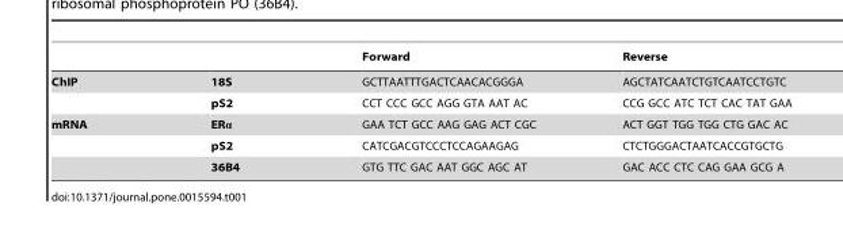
<table><thead><tr><td></td><td></td><td>Forward</td><td>Reverse</td></tr></thead><tbody><tr><td rowspan="2">ChIP</td><td>18S</td><td>GCTTAATTTGACTCAACACGGGA</td><td>AGCTATCAATCTGTCAATCCTGTC</td></tr><tr><td>pS2</td><td>CCT CCC GCC AGG GTA AAT AC</td><td>CCG GCC ATC TCT CAC TAT GAA</td></tr><tr><td rowspan="3">mRNA</td><td>ERα</td><td>GAA TCT GCC AAG GAG ACT CGC</td><td>ACT GGT TGG TGG CTG GAC AC</td></tr><tr><td>pS2</td><td>CATCGACGTCCCTCCAGAAGAG</td><td>CTCTGGGACTAATCACCGTGCTG</td></tr><tr><td>36B4</td><td>GTG TTC GAC AAT GGC AGC AT</td><td>GAC ACC CTC CAG GAA GCG A</td></tr></tbody></table>